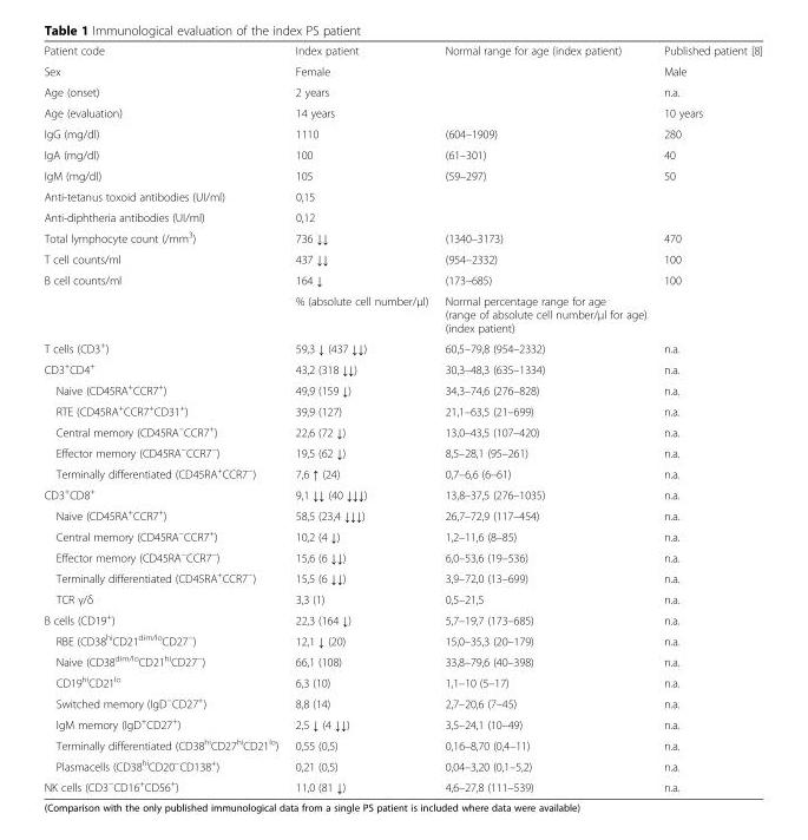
<table><tbody><tr><td>Patient code</td><td>Index patient</td><td>Normal range for age (index patient)</td><td>Published patient [8]</td></tr><tr><td>Sex</td><td>Female</td><td></td><td>Male</td></tr><tr><td>Age (onset)</td><td>2 years</td><td></td><td>n.a.</td></tr><tr><td>Age (evaluation)</td><td>14 years</td><td></td><td>10 years</td></tr><tr><td>IgG (mg/dl)</td><td>1110</td><td>(604–1909)</td><td>280</td></tr><tr><td>IgA (mg/dl)</td><td>100</td><td>(61–301)</td><td>40</td></tr><tr><td>IgM (mg/dl)</td><td>105</td><td>(59–297)</td><td>50</td></tr><tr><td>Anti-tetanus toxoid antibodies (UI/ml)</td><td>0,15</td><td></td><td></td></tr><tr><td>Anti-diphtheria antibodies (UI/ml)</td><td>0,12</td><td></td><td></td></tr><tr><td>Total lymphocyte count (/mm<sup>3</sup>)</td><td>736 ↓↓</td><td>(1340–3173)</td><td>470</td></tr><tr><td>T cell counts/ml</td><td>437 ↓↓</td><td>(954–2332)</td><td>100</td></tr><tr><td rowspan="2">B cell counts/ml</td><td>164 ↓</td><td>(173–685)</td><td>100</td></tr><tr><td>% (absolute cell number/μl)</td><td>Normal percentage range for age (range of absolute cell number/μl for age) (index patient)</td><td></td></tr><tr><td>T cells (CD3<sup>+</sup>)</td><td>59,3 ↓ (437 ↓↓)</td><td>60,5–79,8 (954–2332)</td><td>n.a.</td></tr><tr><td>CD3<sup>+</sup>CD4<sup>+</sup></td><td>43,2 (318 ↓↓)</td><td>30,3–48,3 (635–1334)</td><td>n.a.</td></tr><tr><td>Naive (CD45RA<sup>+</sup>CCR7<sup>+</sup>)</td><td>49,9 (159 ↓)</td><td>34,3–74,6 (276–828)</td><td>n.a.</td></tr><tr><td>RTE (CD45RA<sup>+</sup>CCR7<sup>+</sup>CD31<sup>+</sup>)</td><td>39,9 (127)</td><td>21,1–63,5 (21–699)</td><td>n.a.</td></tr><tr><td>Central memory (CD45RA<sup>−</sup>CCR7<sup>+</sup>)</td><td>22,6 (72 ↓)</td><td>13,0–43,5 (107–420)</td><td>n.a.</td></tr><tr><td>Effector memory (CD45RA<sup>−</sup>CCR7<sup>−</sup>)</td><td>19,5 (62 ↓)</td><td>8,5–28,1 (95–261)</td><td>n.a.</td></tr><tr><td>Terminally differentiated (CD45RA<sup>+</sup>CCR7<sup>−</sup>)</td><td>7,6 ↑ (24)</td><td>0,7–6,6 (6–61)</td><td>n.a.</td></tr><tr><td>CD3<sup>+</sup>CD8<sup>+</sup></td><td>9,1 ↓↓ (40 ↓↓↓)</td><td>13,8–37,5 (276–1035)</td><td>n.a.</td></tr><tr><td>Naive (CD45RA<sup>+</sup>CCR7<sup>+</sup>)</td><td>58,5 (23,4 ↓↓↓)</td><td>26,7–72,9 (117–454)</td><td>n.a.</td></tr><tr><td>Central memory (CD45RA<sup>−</sup>CCR7<sup>+</sup>)</td><td>10,2 (4 ↓)</td><td>1,2–11,6 (8–85)</td><td>n.a.</td></tr><tr><td>Effector memory (CD45RA<sup>−</sup>CCR7<sup>−</sup>)</td><td>15,6 (6 ↓↓)</td><td>6,0–53,6 (19–536)</td><td>n.a.</td></tr><tr><td>Terminally differentiated (CD45RA<sup>+</sup>CCR7<sup>−</sup>)</td><td>15,5 (6 ↓↓)</td><td>3,9–72,0 (13–699)</td><td>n.a.</td></tr><tr><td>TCR γ/δ</td><td>3,3 (1)</td><td>0,5–21,5</td><td>n.a.</td></tr><tr><td>B cells (CD19<sup>+</sup>)</td><td>22,3 (164 ↓)</td><td>5,7–19,7 (173–685)</td><td>n.a.</td></tr><tr><td>RBE (CD38<sup>hi</sup>CD21<sup>dim/lo</sup>CD27<sup>−</sup>)</td><td>12,1 ↓ (20)</td><td>15,0–35,3 (20–179)</td><td>n.a.</td></tr><tr><td>Naive (CD38<sup>dim/lo</sup>CD21<sup>hi</sup>CD27<sup>−</sup>)</td><td>66,1 (108)</td><td>33,8–79,6 (40–398)</td><td>n.a.</td></tr><tr><td>CD19<sup>hi</sup>CD21<sup>lo</sup></td><td>6,3 (10)</td><td>1,1–10 (5–17)</td><td>n.a.</td></tr><tr><td>Switched memory (IgD<sup>−</sup>CD27<sup>+</sup>)</td><td>8,8 (14)</td><td>2,7–20,6 (7–45)</td><td>n.a.</td></tr><tr><td>IgM memory (IgD<sup>+</sup>CD27<sup>+</sup>)</td><td>2,5 ↓ (4 ↓↓)</td><td>3,5–24,1 (10–49)</td><td>n.a.</td></tr><tr><td>Terminally differentiated (CD38<sup>hi</sup>CD27<sup>hi</sup>CD21<sup>lo</sup>)</td><td>0,55 (0,5)</td><td>0,16–8,70 (0,4–11)</td><td>n.a.</td></tr><tr><td>Plasmacells (CD38<sup>hi</sup>CD20<sup>−</sup>CD138<sup>+</sup>)</td><td>0,21 (0,5)</td><td>0,04–3,20 (0,1–5,2)</td><td>n.a.</td></tr><tr><td>NK cells (CD3<sup>−</sup>CD16<sup>+</sup>CD56<sup>+</sup>)</td><td>11,0 (81 ↓)</td><td>4,6–27,8 (111–539)</td><td>n.a.</td></tr></tbody></table>